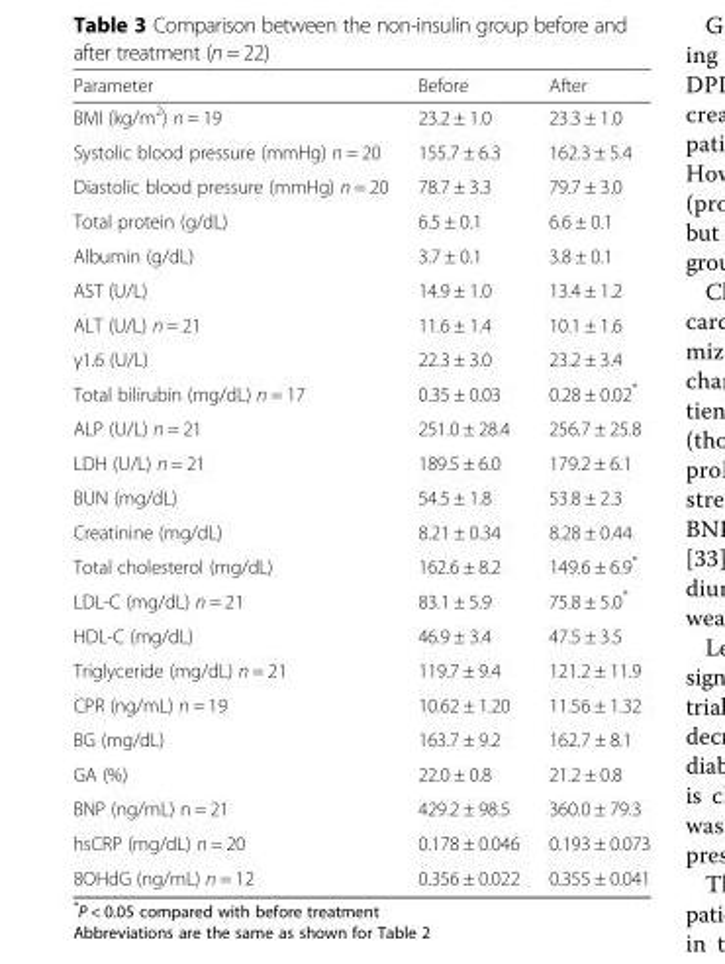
<table><thead><tr><td>Parameter</td><td>Before</td><td>After</td></tr></thead><tbody><tr><td>BMI (kg/m<sup>2</sup>) n = 19</td><td>23.2 ± 1.0</td><td>23.3 ± 1.0</td></tr><tr><td>Systolic blood pressure (mmHg) n = 20</td><td>155.7 ± 6.3</td><td>162.3 ± 5.4</td></tr><tr><td>Diastolic blood pressure (mmHg) n = 20</td><td>78.7 ± 3.3</td><td>79.7 ± 3.0</td></tr><tr><td>Total protein (g/dL)</td><td>6.5 ± 0.1</td><td>6.6 ± 0.1</td></tr><tr><td>Albumin (g/dL)</td><td>3.7 ± 0.1</td><td>3.8 ± 0.1</td></tr><tr><td>AST (U/L)</td><td>14.9 ± 1.0</td><td>13.4 ± 1.2</td></tr><tr><td>ALT (U/L) n = 21</td><td>11.6 ± 1.4</td><td>10.1 ± 1.6</td></tr><tr><td>γ1.6 (U/L)</td><td>22.3 ± 3.0</td><td>23.2 ± 3.4</td></tr><tr><td>Total bilirubin (mg/dL) n = 17</td><td>0.35 ± 0.03</td><td>0.28 ± 0.02*</td></tr><tr><td>ALP (U/L) n = 21</td><td>251.0 ± 28.4</td><td>256.7 ± 25.8</td></tr><tr><td>LDH (U/L) n = 21</td><td>189.5 ± 6.0</td><td>179.2 ± 6.1</td></tr><tr><td>BUN (mg/dL)</td><td>54.5 ± 1.8</td><td>53.8 ± 2.3</td></tr><tr><td>Creatinine (mg/dL)</td><td>8.21 ± 0.34</td><td>8.28 ± 0.44</td></tr><tr><td>Total cholesterol (mg/dL)</td><td>162.6 ± 8.2</td><td>149.6 ± 6.9*</td></tr><tr><td>LDL-C (mg/dL) n = 21</td><td>83.1 ± 5.9</td><td>75.8 ± 5.0*</td></tr><tr><td>HDL-C (mg/dL)</td><td>46.9 ± 3.4</td><td>47.5 ± 3.5</td></tr><tr><td>Triglyceride (mg/dL) n = 21</td><td>119.7 ± 9.4</td><td>121.2 ± 11.9</td></tr><tr><td>CPR (ng/mL) n = 19</td><td>10.62 ± 1.20</td><td>11.56 ± 1.32</td></tr><tr><td>BG (mg/dL)</td><td>163.7 ± 9.2</td><td>162.7 ± 8.1</td></tr><tr><td>GA (%)</td><td>22.0 ± 0.8</td><td>21.2 ± 0.8</td></tr><tr><td>BNP (ng/mL) n = 21</td><td>429.2 ± 98.5</td><td>360.0 ± 79.3</td></tr><tr><td>hsCRP (mg/dL) n = 20</td><td>0.178 ± 0.046</td><td>0.193 ± 0.073</td></tr><tr><td>8OHdG (ng/mL) n = 12</td><td>0.356 ± 0.022</td><td>0.355 ± 0.041</td></tr></tbody></table>